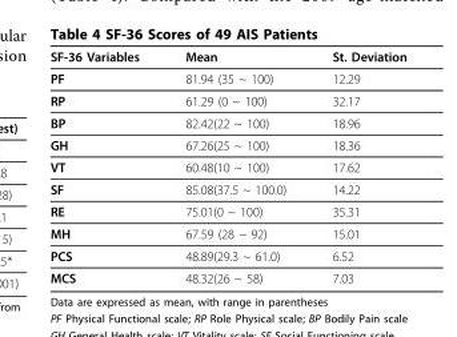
<table><thead><tr><td>SF-36 Variables</td><td>Mean</td><td>St. Deviation</td></tr></thead><tbody><tr><td>PF</td><td>81.94 (35 ~ 100)</td><td>12.29</td></tr><tr><td>RP</td><td>61.29 (0 ~ 100)</td><td>32.17</td></tr><tr><td>BP</td><td>82.42(22 ~ 100)</td><td>18.96</td></tr><tr><td>GH</td><td>67.26(25 ~ 100)</td><td>18.36</td></tr><tr><td>VT</td><td>60.48(10 ~ 100)</td><td>17.62</td></tr><tr><td>SF</td><td>85.08(37.5 ~ 100.0)</td><td>14.22</td></tr><tr><td>RE</td><td>75.01(0 ~ 100)</td><td>35.31</td></tr><tr><td>MH</td><td>67.59 (28 ~ 92)</td><td>15.01</td></tr><tr><td>PCS</td><td>48.89(29.3 ~ 61.0)</td><td>6.52</td></tr><tr><td>MCS</td><td>48.32(26 ~ 58)</td><td>7.03</td></tr></tbody></table>